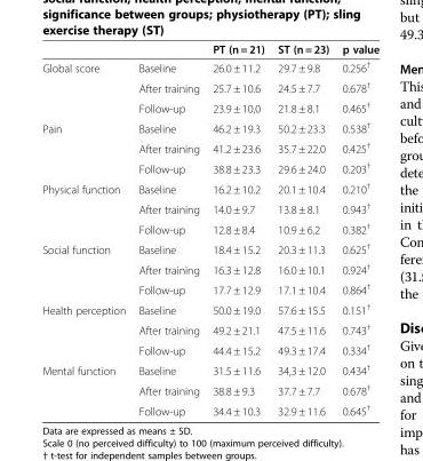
<table><thead><tr><td></td><td></td><td>PT (n = 21)</td><td>ST (n = 23)</td><td>p value</td></tr></thead><tbody><tr><td rowspan="3">Global score</td><td>Baseline</td><td>26.0 ± 11.2</td><td>29.7 ± 9.8</td><td>0.256<sup>†</sup></td></tr><tr><td>After training</td><td>25.7 ± 10.6</td><td>24.5 ± 7.7</td><td>0.678<sup>†</sup></td></tr><tr><td>Follow-up</td><td>23.9 ± 10,0</td><td>21.8 ± 8.1</td><td>0.465<sup>†</sup></td></tr><tr><td rowspan="3">Pain</td><td>Baseline</td><td>46.2 ± 19.3</td><td>50.2 ± 23.3</td><td>0.538<sup>†</sup></td></tr><tr><td>After training</td><td>41.2 ± 23.6</td><td>35.7 ± 22.0</td><td>0.425<sup>†</sup></td></tr><tr><td>Follow-up</td><td>38.8 ± 23.3</td><td>29.6 ± 24.0</td><td>0.203<sup>†</sup></td></tr><tr><td rowspan="3">Physical function</td><td>Baseline</td><td>16.2 ± 10.2</td><td>20.1 ± 10.4</td><td>0.210<sup>†</sup></td></tr><tr><td>After training</td><td>14.0 ± 9.7</td><td>13.8 ± 8.1</td><td>0.943<sup>†</sup></td></tr><tr><td>Follow-up</td><td>12.8 ± 8.4</td><td>10.9 ± 6.2</td><td>0.382<sup>†</sup></td></tr><tr><td rowspan="3">Social function</td><td>Baseline</td><td>18.4 ± 15.2</td><td>20.3 ± 11.3</td><td>0.625<sup>†</sup></td></tr><tr><td>After training</td><td>16.3 ± 12.8</td><td>16.0 ± 10.1</td><td>0.924<sup>†</sup></td></tr><tr><td>Follow-up</td><td>17.7 ± 12.9</td><td>17.1 ± 10.4</td><td>0.864<sup>†</sup></td></tr><tr><td rowspan="3">Health perception</td><td>Baseline</td><td>50.0 ± 19.0</td><td>57.6 ± 15.5</td><td>0.151<sup>†</sup></td></tr><tr><td>After training</td><td>49.2 ± 21.1</td><td>47.5 ± 11.6</td><td>0.743<sup>†</sup></td></tr><tr><td>Follow-up</td><td>44.4 ± 15.2</td><td>49.3 ± 17.4</td><td>0.334<sup>†</sup></td></tr><tr><td rowspan="3">Mental function</td><td>Baseline</td><td>31.5 ± 11.6</td><td>34,3 ± 12.0</td><td>0.434<sup>†</sup></td></tr><tr><td>After training</td><td>38.8 ± 9.3</td><td>37.7 ± 7.7</td><td>0.678<sup>†</sup></td></tr><tr><td>Follow-up</td><td>34.4 ± 10.3</td><td>32.9 ± 11.6</td><td>0.645<sup>†</sup></td></tr></tbody></table>